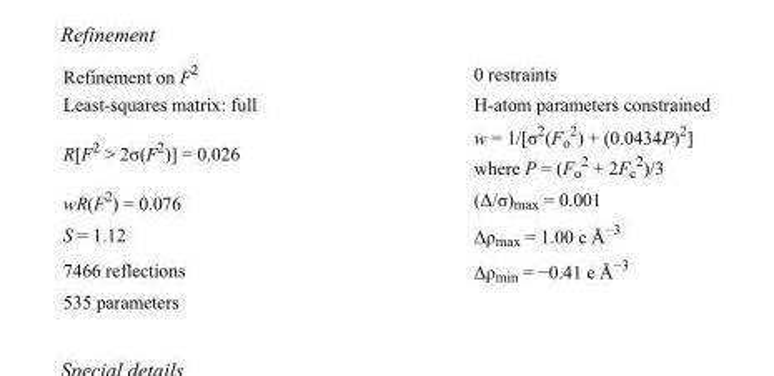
<table><tbody><tr><td>Refinement on F<sup>2</sup></td><td>0 restraints</td></tr><tr><td>Least-squares matrix: full</td><td>H-atom parameters constrained</td></tr><tr><td>R[F<sup>2</sup> &gt; 2σ(F<sup>2</sup>)] = 0.026</td><td>w = 1/[σ<sup>2</sup>(F<sub>o</sub> <sup>2</sup>) + (0.0434P)<sup>2</sup>] where P = (F<sub>o</sub> <sup>2</sup> + 2F<sub>c</sub> <sup>2</sup>)/3</td></tr><tr><td>wR(F<sup>2</sup>) = 0.076</td><td>(Δ/σ)<sub>max</sub> = 0.001</td></tr><tr><td>S = 1.12</td><td>Δρ<sub>max</sub> = 1.00 e Å<sup>−3</sup></td></tr><tr><td>7466 reflections</td><td>Δρmin = −0.41 e Å−3</td></tr><tr><td>535 parameters</td><td></td></tr></tbody></table>